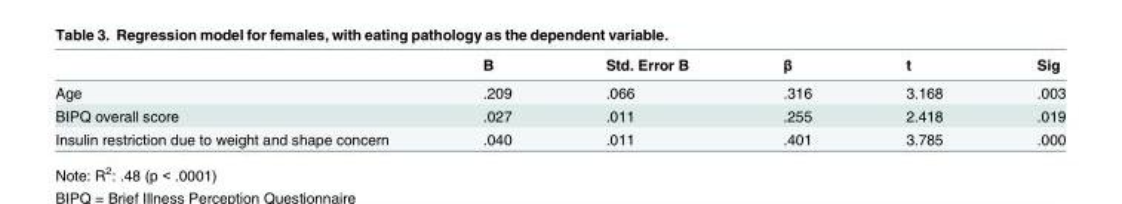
<table><thead><tr><td></td><td>B</td><td>Std. Error B</td><td>β</td><td>t</td><td>Sig</td></tr></thead><tbody><tr><td>Age</td><td>.209</td><td>.066</td><td>.316</td><td>3.168</td><td>.003</td></tr><tr><td>BIPQ overall score</td><td>.027</td><td>.011</td><td>.255</td><td>2.418</td><td>.019</td></tr><tr><td>Insulin restriction due to weight and shape concern</td><td>.040</td><td>.011</td><td>.401</td><td>3.785</td><td>.000</td></tr></tbody></table>